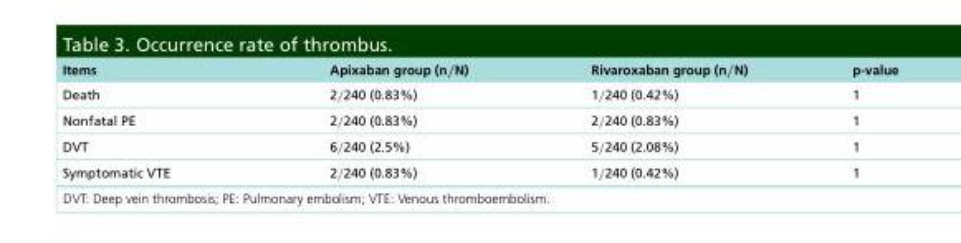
<table><thead><tr><td>Items</td><td>Apixaban group (n/N)</td><td>Rivaroxaban group (n/N)</td><td>p-value</td></tr></thead><tbody><tr><td>Death</td><td>2/240 (0.83%)</td><td>1/240 (0.42%)</td><td>1</td></tr><tr><td>Nonfatal PE</td><td>2/240 (0.83%)</td><td>2/240 (0.83%)</td><td>1</td></tr><tr><td>DVT</td><td>6/240 (2.5%)</td><td>5/240 (2.08%)</td><td>1</td></tr><tr><td>Symptomatic VTE</td><td>2/240 (0.83%)</td><td>1/240 (0.42%)</td><td>1</td></tr></tbody></table>